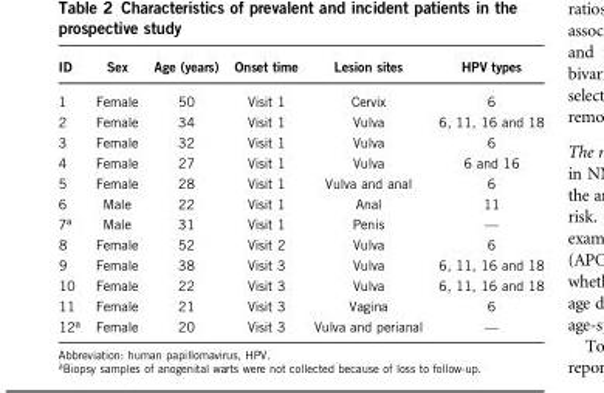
<table><thead><tr><td>ID</td><td>Sex</td><td>Age (years)</td><td>Onset time</td><td>Lesion sites</td><td>HPV types</td></tr></thead><tbody><tr><td>1</td><td>Female</td><td>50</td><td>Visit 1</td><td>Cervix</td><td>6</td></tr><tr><td>2</td><td>Female</td><td>34</td><td>Visit 1</td><td>Vulva</td><td>6, 11, 16 and 18</td></tr><tr><td>3</td><td>Female</td><td>32</td><td>Visit 1</td><td>Vulva</td><td>6</td></tr><tr><td>4</td><td>Female</td><td>27</td><td>Visit 1</td><td>Vulva</td><td>6 and 16</td></tr><tr><td>5</td><td>Female</td><td>28</td><td>Visit 1</td><td>Vulva and anal</td><td>6</td></tr><tr><td>6</td><td>Male</td><td>22</td><td>Visit 1</td><td>Anal</td><td>11</td></tr><tr><td>7<sup>a</sup></td><td>Male</td><td>31</td><td>Visit 1</td><td>Penis</td><td>—</td></tr><tr><td>8</td><td>Female</td><td>52</td><td>Visit 2</td><td>Vulva</td><td>6</td></tr><tr><td>9</td><td>Female</td><td>38</td><td>Visit 3</td><td>Vulva</td><td>6, 11, 16 and 18</td></tr><tr><td>10</td><td>Female</td><td>22</td><td>Visit 3</td><td>Vulva</td><td>6, 11, 16 and 18</td></tr><tr><td>11</td><td>Female</td><td>21</td><td>Visit 3</td><td>Vagina</td><td>6</td></tr><tr><td>12<sup>a</sup></td><td>Female</td><td>20</td><td>Visit 3</td><td>Vulva and perianal</td><td>—</td></tr></tbody></table>